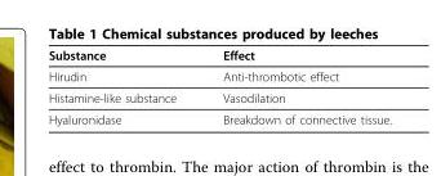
<table><thead><tr><td>Substance</td><td>Effect</td></tr></thead><tbody><tr><td>Hirudin</td><td>Anti-thrombotic effect</td></tr><tr><td>Histamine-like substance</td><td>Vasodilation</td></tr><tr><td>Hyaluronidase</td><td>Breakdown of connective tissue.</td></tr></tbody></table>